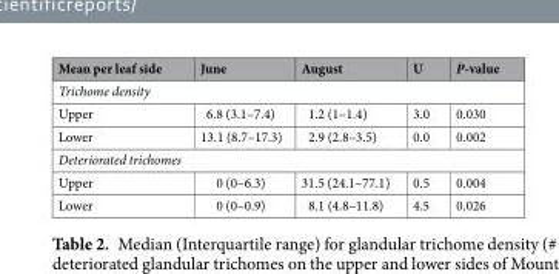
<table><thead><tr><td>Mean per leaf side</td><td>June</td><td>August</td><td>U</td><td>P-value</td></tr></thead><tbody><tr><td colspan="5">Trichome density</td></tr><tr><td>Upper</td><td>6.8 (3.1–7.4)</td><td>1.2 (1–1.4)</td><td>3.0</td><td>0.030</td></tr><tr><td>Lower</td><td>13.1 (8.7–17.3)</td><td>2.9 (2.8–3.5)</td><td>0.0</td><td>0.002</td></tr><tr><td colspan="5">Deteriorated trichomes</td></tr><tr><td>Upper</td><td>0 (0–6.3)</td><td>31.5 (24.1–77.1)</td><td>0.5</td><td>0.004</td></tr><tr><td>Lower</td><td>0 (0–0.9)</td><td>8.1 (4.8–11.8)</td><td>4.5</td><td>0.026</td></tr></tbody></table>